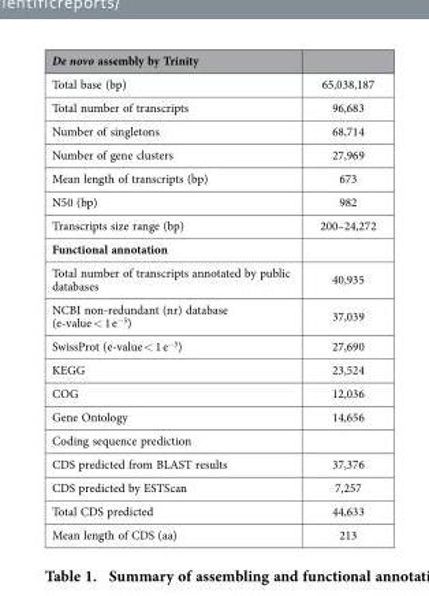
<table><thead><tr><td>De novo assembly by Trinity</td><td></td></tr></thead><tbody><tr><td>Total base (bp)</td><td>65,038,187</td></tr><tr><td>Total number of transcripts</td><td>96,683</td></tr><tr><td>Number of singletons</td><td>68,714</td></tr><tr><td>Number of gene clusters</td><td>27,969</td></tr><tr><td>Mean length of transcripts (bp)</td><td>673</td></tr><tr><td>N50 (bp)</td><td>982</td></tr><tr><td>Transcripts size range (bp)</td><td>200–24,272</td></tr><tr><td colspan="2">Functional annotation</td></tr><tr><td>Total number of transcripts annotated by public databases</td><td>40,935</td></tr><tr><td>NCBI non-redundant (nr) database (e-value &lt; 1 e<sup>−5</sup>)</td><td>37,039</td></tr><tr><td>SwissProt (e-value &lt; 1 e<sup>−5</sup>)</td><td>27,690</td></tr><tr><td>KEGG</td><td>23,524</td></tr><tr><td>COG</td><td>12,036</td></tr><tr><td>Gene Ontology</td><td>14,656</td></tr><tr><td colspan="2">Coding sequence prediction</td></tr><tr><td>CDS predicted from BLAST results</td><td>37,376</td></tr><tr><td>CDS predicted by ESTScan</td><td>7,257</td></tr><tr><td>Total CDS predicted</td><td>44,633</td></tr><tr><td>Mean length of CDS (aa)</td><td>213</td></tr></tbody></table>